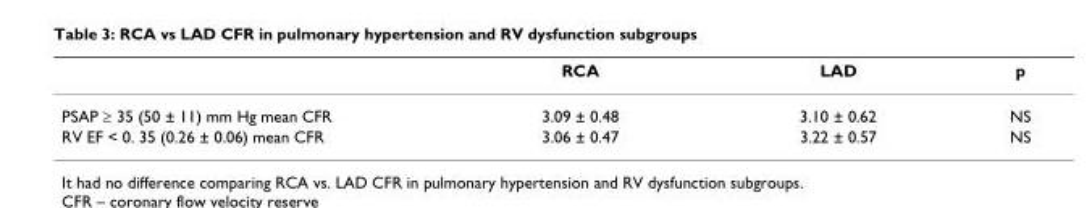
<table><thead><tr><td></td><td>RCA</td><td>LAD</td><td>p</td></tr></thead><tbody><tr><td>PSAP ≥ 35 (50 ± 11) mm Hg mean CFR</td><td>3.09 ± 0.48</td><td>3.10 ± 0.62</td><td>NS</td></tr><tr><td>RV EF &lt; 0. 35 (0.26 ± 0.06) mean CFR</td><td>3.06 ± 0.47</td><td>3.22 ± 0.57</td><td>NS</td></tr></tbody></table>